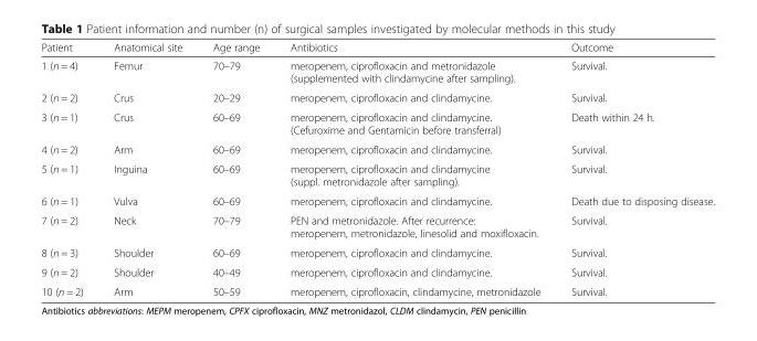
<table><thead><tr><td>Patient</td><td>Anatomical site</td><td>Age range</td><td>Antibiotics</td><td>Outcome</td></tr></thead><tbody><tr><td>1 (n = 4)</td><td>Femur</td><td>70–79</td><td>meropenem, ciprofloxacin and metronidazole (supplemented with clindamycine after sampling).</td><td>Survival.</td></tr><tr><td>2 (n = 2)</td><td>Crus</td><td>20–29</td><td>meropenem, ciprofloxacin and clindamycine.</td><td>Survival.</td></tr><tr><td>3 (n = 1)</td><td>Crus</td><td>60–69</td><td>meropenem, ciprofloxacin and clindamycine. (Cefuroxime and Gentamicin before transferral)</td><td>Death within 24 h.</td></tr><tr><td>4 (n = 2)</td><td>Arm</td><td>60–69</td><td>meropenem, ciprofloxacin and clindamycine.</td><td>Survival.</td></tr><tr><td>5 (n = 1)</td><td>Inguina</td><td>60–69</td><td>meropenem, ciprofloxacin and clindamycine (suppl. metronidazole after sampling).</td><td>Survival.</td></tr><tr><td>6 (n = 1)</td><td>Vulva</td><td>60–69</td><td>meropenem, ciprofloxacin and clindamycine.</td><td>Death due to disposing disease.</td></tr><tr><td>7 (n = 2)</td><td>Neck</td><td>70–79</td><td>PEN and metronidazole. After recurrence: meropenem, metronidazole, linesolid and moxifloxacin.</td><td>Survival.</td></tr><tr><td>8 (n = 3)</td><td>Shoulder</td><td>60–69</td><td>meropenem, ciprofloxacin and clindamycine.</td><td>Survival.</td></tr><tr><td>9 (n = 2)</td><td>Shoulder</td><td>40–49</td><td>meropenem, ciprofloxacin and clindamycine.</td><td>Survival.</td></tr><tr><td>10 (n = 2)</td><td>Arm</td><td>50–59</td><td>meropenem, ciprofloxacin, clindamycine, metronidazole</td><td>Survival.</td></tr></tbody></table>